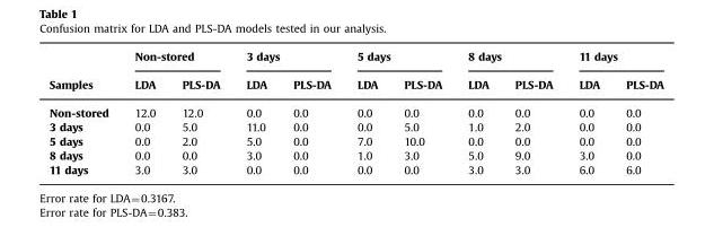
<table><thead><tr><td rowspan="2">Samples</td><td colspan="2">Non-stored</td><td colspan="2">3 days</td><td colspan="2">5 days</td><td colspan="2">8 days</td><td colspan="2">11 days</td></tr><tr><td>LDA</td><td>PLS-DA</td><td>LDA</td><td>PLS-DA</td><td>LDA</td><td>PLS-DA</td><td>LDA</td><td>PLS-DA</td><td>LDA</td><td>PLS-DA</td></tr></thead><tbody><tr><td>Non-stored</td><td>12.0</td><td>12.0</td><td>0.0</td><td>0.0</td><td>0.0</td><td>0.0</td><td>0.0</td><td>0.0</td><td>0.0</td><td>0.0</td></tr><tr><td>3 days</td><td>0.0</td><td>5.0</td><td>11.0</td><td>0.0</td><td>0.0</td><td>5.0</td><td>1.0</td><td>2.0</td><td>0.0</td><td>0.0</td></tr><tr><td>5 days</td><td>0.0</td><td>2.0</td><td>5.0</td><td>0.0</td><td>7.0</td><td>10.0</td><td>0.0</td><td>0.0</td><td>0.0</td><td>0.0</td></tr><tr><td>8 days</td><td>0.0</td><td>0.0</td><td>3.0</td><td>0.0</td><td>1.0</td><td>3.0</td><td>5.0</td><td>9.0</td><td>3.0</td><td>0.0</td></tr><tr><td>11 days</td><td>3.0</td><td>3.0</td><td>0.0</td><td>0.0</td><td>0.0</td><td>0.0</td><td>3.0</td><td>3.0</td><td>6.0</td><td>6.0</td></tr></tbody></table>